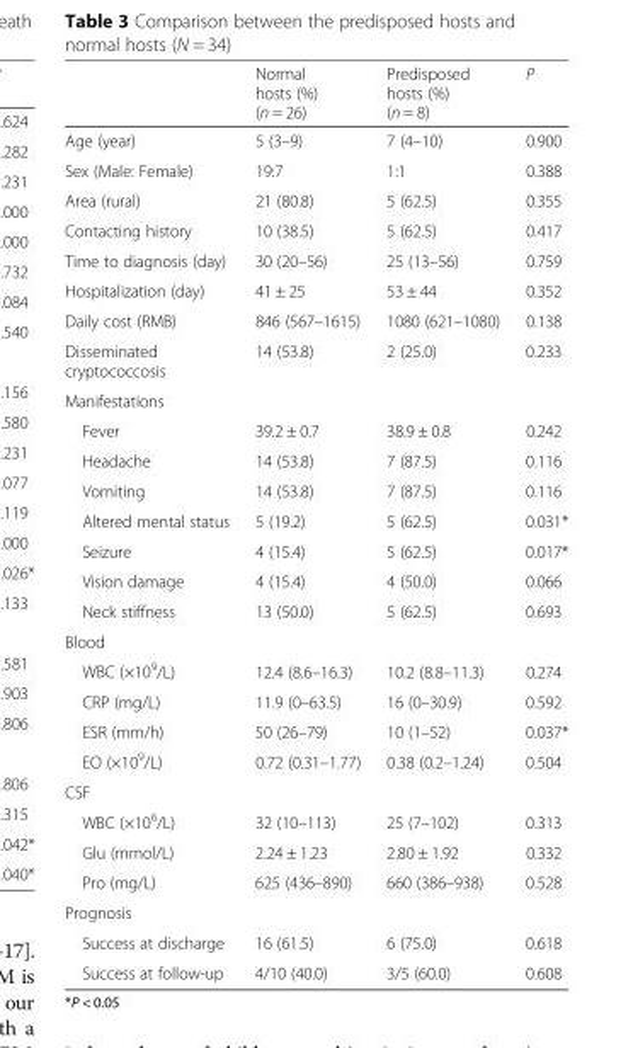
<table><thead><tr><td></td><td>Normal hosts (%) (n = 26)</td><td>Predisposed hosts (%) (n = 8)</td><td>P</td></tr></thead><tbody><tr><td>Age (year)</td><td>5 (3–9)</td><td>7 (4–10)</td><td>0.900</td></tr><tr><td>Sex (Male: Female)</td><td>19:7</td><td>1:1</td><td>0.388</td></tr><tr><td>Area (rural)</td><td>21 (80.8)</td><td>5 (62.5)</td><td>0.355</td></tr><tr><td>Contacting history</td><td>10 (38.5)</td><td>5 (62.5)</td><td>0.417</td></tr><tr><td>Time to diagnosis (day)</td><td>30 (20–56)</td><td>25 (13–56)</td><td>0.759</td></tr><tr><td>Hospitalization (day)</td><td>41 ± 25</td><td>53 ± 44</td><td>0.352</td></tr><tr><td>Daily cost (RMB)</td><td>846 (567–1615)</td><td>1080 (621–1080)</td><td>0.138</td></tr><tr><td>Disseminated cryptococcosis</td><td>14 (53.8)</td><td>2 (25.0)</td><td>0.233</td></tr><tr><td colspan="4">Manifestations</td></tr><tr><td>Fever</td><td>39.2 ± 0.7</td><td>38.9 ± 0.8</td><td>0.242</td></tr><tr><td>Headache</td><td>14 (53.8)</td><td>7 (87.5)</td><td>0.116</td></tr><tr><td>Vomiting</td><td>14 (53.8)</td><td>7 (87.5)</td><td>0.116</td></tr><tr><td>Altered mental status</td><td>5 (19.2)</td><td>5 (62.5)</td><td>0.031*</td></tr><tr><td>Seizure</td><td>4 (15.4)</td><td>5 (62.5)</td><td>0.017*</td></tr><tr><td>Vision damage</td><td>4 (15.4)</td><td>4 (50.0)</td><td>0.066</td></tr><tr><td>Neck stiffness</td><td>13 (50.0)</td><td>5 (62.5)</td><td>0.693</td></tr><tr><td colspan="4">Blood</td></tr><tr><td>WBC (×10<sup>9</sup>/L)</td><td>12.4 (8.6–16.3)</td><td>10.2 (8.8–11.3)</td><td>0.274</td></tr><tr><td>CRP (mg/L)</td><td>11.9 (0–63.5)</td><td>16 (0–30.9)</td><td>0.592</td></tr><tr><td>ESR (mm/h)</td><td>50 (26–79)</td><td>10 (1–52)</td><td>0.037*</td></tr><tr><td>EO (×10<sup>9</sup>/L)</td><td>0.72 (0.31–1.77)</td><td>0.38 (0.2–1.24)</td><td>0.504</td></tr><tr><td colspan="4">CSF</td></tr><tr><td>WBC (×10<sup>6</sup>/L)</td><td>32 (10–113)</td><td>25 (7–102)</td><td>0.313</td></tr><tr><td>Glu (mmol/L)</td><td>2.24 ± 1.23</td><td>2.80 ± 1.92</td><td>0.332</td></tr><tr><td>Pro (mg/L)</td><td>625 (436–890)</td><td>660 (386–938)</td><td>0.528</td></tr><tr><td colspan="4">Prognosis</td></tr><tr><td>Success at discharge</td><td>16 (61.5)</td><td>6 (75.0)</td><td>0.618</td></tr><tr><td>Success at follow-up</td><td>4/10 (40.0)</td><td>3/5 (60.0)</td><td>0.608</td></tr></tbody></table>